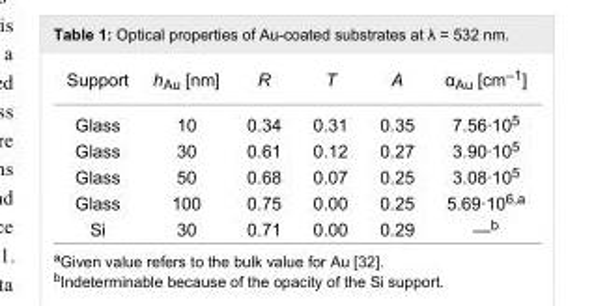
<table><tbody><tr><td>Support</td><td>h<sub>Au</sub> [nm]</td><td>R</td><td>T</td><td>A</td><td>α<sub>Au</sub> [cm<sup>–1</sup>]</td></tr><tr><td>Glass</td><td>10</td><td>0.34</td><td>0.31</td><td>0.35</td><td>7.56·10<sup>5</sup></td></tr><tr><td>Glass</td><td>30</td><td>0.61</td><td>0.12</td><td>0.27</td><td>3.90·10<sup>5</sup></td></tr><tr><td>Glass</td><td>50</td><td>0.68</td><td>0.07</td><td>0.25</td><td>3.08·10<sup>5</sup></td></tr><tr><td>Glass</td><td>100</td><td>0.75</td><td>0.00</td><td>0.25</td><td>5.69·10<sup>6,a</sup></td></tr><tr><td>Si</td><td>30</td><td>0.71</td><td>0.00</td><td>0.29</td><td>—<sup>b</sup></td></tr></tbody></table>